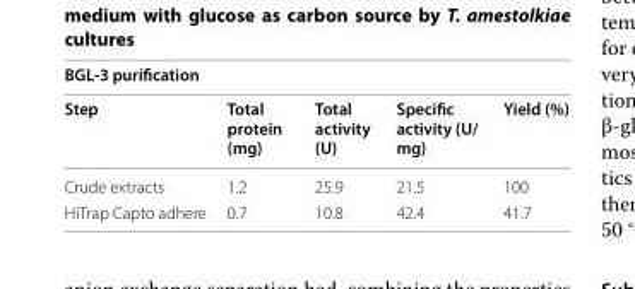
<table><thead><tr><td colspan="5">BGL‑3 purification</td></tr><tr><td>Step</td><td>Total protein (mg)</td><td>Total activity (U)</td><td>Specific activity (U/ mg)</td><td>Yield (%)</td></tr></thead><tbody><tr><td>Crude extracts</td><td>1.2</td><td>25.9</td><td>21.5</td><td>100</td></tr><tr><td>HiTrap Capto adhere</td><td>0.7</td><td>10.8</td><td>42.4</td><td>41.7</td></tr></tbody></table>